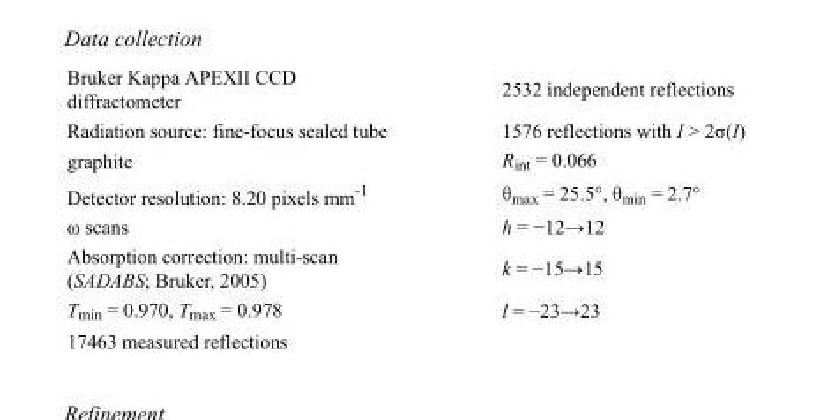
<table><tbody><tr><td>Bruker Kappa APEXII CCD diffractometer</td><td>2532 independent reflections</td></tr><tr><td>Radiation source: fine-focus sealed tube</td><td>1576 reflections with I &gt; 2σ(I)</td></tr><tr><td>graphite</td><td>R<sub>int</sub> = 0.066</td></tr><tr><td>Detector resolution: 8.20 pixels mm<sup>-1</sup></td><td>θ<sub>max</sub> = 25.5°, θ<sub>min</sub> = 2.7°</td></tr><tr><td>ω scans</td><td>h = −12→12</td></tr><tr><td>Absorption correction: multi-scan (SADABS; Bruker, 2005)</td><td>k = −15→15</td></tr><tr><td>T<sub>min</sub> = 0.970, T<sub>max</sub> = 0.978</td><td>l = −23→23</td></tr><tr><td>17463 measured reflections</td><td></td></tr></tbody></table>